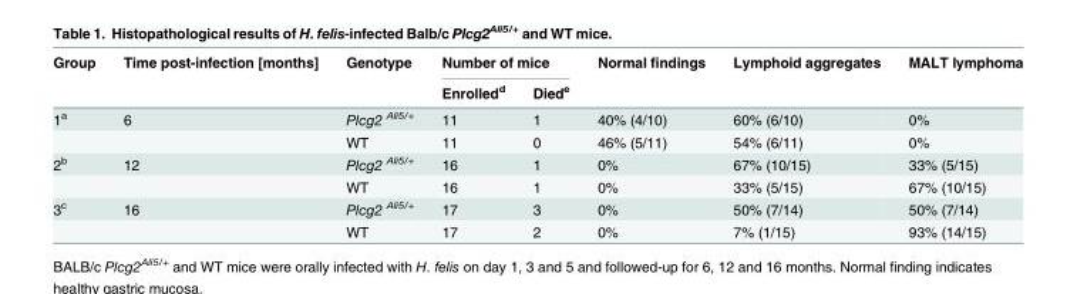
<table><thead><tr><td rowspan="2">Group</td><td rowspan="2">Time post-infection [months]</td><td rowspan="2">Genotype</td><td colspan="2">Number of mice</td><td rowspan="2">Normal findings</td><td rowspan="2">Lymphoid aggregates</td><td rowspan="2">MALT lymphoma</td></tr><tr><td>Enrolled<sup>d</sup></td><td>Died<sup>e</sup></td></tr></thead><tbody><tr><td rowspan="2">1<sup>a</sup></td><td>6</td><td>Plcg2 <sup>Ali5/+</sup></td><td>11</td><td>1</td><td>40% (4/10)</td><td>60% (6/10)</td><td>0%</td></tr><tr><td></td><td>WT</td><td>11</td><td>0</td><td>46% (5/11)</td><td>54% (6/11)</td><td>0%</td></tr><tr><td rowspan="2">2<sup>b</sup></td><td>12</td><td>Plcg2 <sup>Ali5/+</sup></td><td>16</td><td>1</td><td>0%</td><td>67% (10/15)</td><td>33% (5/15)</td></tr><tr><td></td><td>WT</td><td>16</td><td>1</td><td>0%</td><td>33% (5/15)</td><td>67% (10/15)</td></tr><tr><td rowspan="2">3<sup>c</sup></td><td>16</td><td>Plcg2 <sup>Ali5/+</sup></td><td>17</td><td>3</td><td>0%</td><td>50% (7/14)</td><td>50% (7/14)</td></tr><tr><td></td><td>WT</td><td>17</td><td>2</td><td>0%</td><td>7% (1/15)</td><td>93% (14/15)</td></tr></tbody></table>